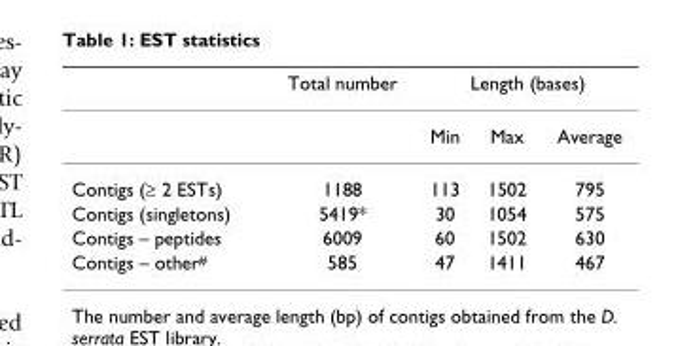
<table><thead><tr><td rowspan="2"></td><td rowspan="2">Total number</td><td colspan="3">Length (bases)</td></tr><tr><td>Min</td><td>Max</td><td>Average</td></tr></thead><tbody><tr><td>Contigs (≥ 2 ESTs)</td><td>1188</td><td>113</td><td>1502</td><td>795</td></tr><tr><td>Contigs (singletons)</td><td>5419*</td><td>30</td><td>1054</td><td>575</td></tr><tr><td>Contigs – peptides</td><td>6009</td><td>60</td><td>1502</td><td>630</td></tr><tr><td>Contigs – other<sup>#</sup></td><td>585</td><td>47</td><td>1411</td><td>467</td></tr></tbody></table>